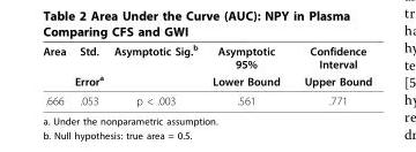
<table><thead><tr><td rowspan="2">Area</td><td rowspan="2">Std. Error<sup>a</sup></td><td rowspan="2">Asymptotic Sig.<sup>b</sup></td><td rowspan="2">Asymptotic 95% Lower Bound</td><td rowspan="2">Confidence Interval Upper Bound</td></tr><tr></tr></thead><tbody><tr><td>.666</td><td>.053</td><td>p &lt; .003</td><td>.561</td><td>.771</td></tr></tbody></table>